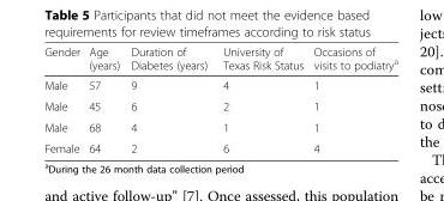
<table><thead><tr><td>Gender</td><td>Age (years)</td><td>Duration of Diabetes (years)</td><td>University of Texas Risk Status</td><td>Occasions of visits to podiatry<sup>a</sup></td></tr></thead><tbody><tr><td>Male</td><td>57</td><td>9</td><td>4</td><td>1</td></tr><tr><td>Male</td><td>45</td><td>6</td><td>2</td><td>1</td></tr><tr><td>Male</td><td>68</td><td>4</td><td>1</td><td>1</td></tr><tr><td>Female</td><td>64</td><td>2</td><td>6</td><td>4</td></tr></tbody></table>